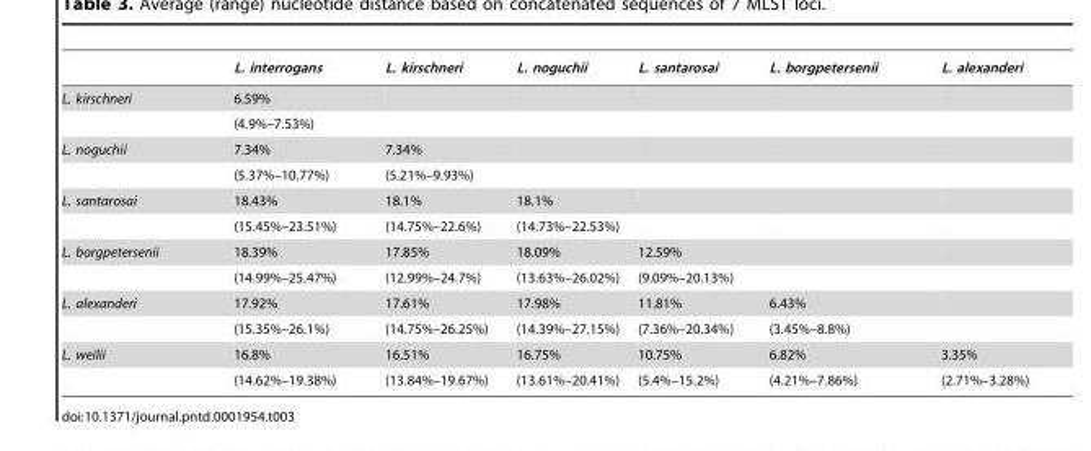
<table><thead><tr><td></td><td>L. interrogans</td><td>L. kirschneri</td><td>L. noguchii</td><td>L. santarosai</td><td>L. borgpetersenii</td><td>L. alexanderi</td></tr></thead><tbody><tr><td rowspan="2">L. kirschneri</td><td>6.59%</td><td></td><td></td><td></td><td></td><td></td></tr><tr><td>(4.9%–7.53%)</td><td></td><td></td><td></td><td></td><td></td></tr><tr><td rowspan="2">L. noguchii</td><td>7.34%</td><td>7.34%</td><td></td><td></td><td></td><td></td></tr><tr><td>(5.37%–10.77%)</td><td>(5.21%–9.93%)</td><td></td><td></td><td></td><td></td></tr><tr><td rowspan="2">L. santarosai</td><td>18.43%</td><td>18.1%</td><td>18.1%</td><td></td><td></td><td></td></tr><tr><td>(15.45%–23.51%)</td><td>(14.75%–22.6%)</td><td>(14.73%–22.53%)</td><td></td><td></td><td></td></tr><tr><td rowspan="2">L. borgpetersenii</td><td>18.39%</td><td>17.85%</td><td>18.09%</td><td>12.59%</td><td></td><td></td></tr><tr><td>(14.99%–25.47%)</td><td>(12.99%–24.7%)</td><td>(13.63%–26.02%)</td><td>(9.09%–20.13%)</td><td></td><td></td></tr><tr><td rowspan="2">L. alexanderi</td><td>17.92%</td><td>17.61%</td><td>17.98%</td><td>11.81%</td><td>6.43%</td><td></td></tr><tr><td>(15.35%–26.1%)</td><td>(14.75%–26.25%)</td><td>(14.39%–27.15%)</td><td>(7.36%–20.34%)</td><td>(3.45%–8.8%)</td><td></td></tr><tr><td rowspan="2">L. weilii</td><td>16.8%</td><td>16.51%</td><td>16.75%</td><td>10.75%</td><td>6.82%</td><td>3.35%</td></tr><tr><td>(14.62%–19.38%)</td><td>(13.84%–19.67%)</td><td>(13.61%–20.41%)</td><td>(5.4%–15.2%)</td><td>(4.21%–7.86%)</td><td>(2.71%–3.28%)</td></tr></tbody></table>